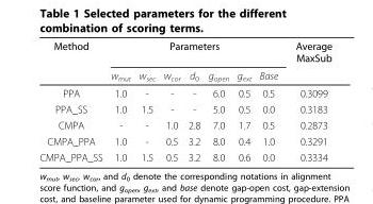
<table><thead><tr><td rowspan="2">Method</td><td colspan="7">Parameters</td><td rowspan="2">Average MaxSub</td></tr><tr><td>w<sub>mut</sub></td><td>w<sub>sec</sub></td><td>w<sub>cor</sub></td><td>d<sub>0</sub></td><td>g<sub>open</sub></td><td>g<sub>ext</sub></td><td>Base</td></tr></thead><tbody><tr><td>PPA</td><td>1.0</td><td>-</td><td>-</td><td>-</td><td>6.0</td><td>0.5</td><td>0.5</td><td>0.3099</td></tr><tr><td>PPA_SS</td><td>1.0</td><td>1.5</td><td>-</td><td>-</td><td>5.0</td><td>0.5</td><td>0.0</td><td>0.3183</td></tr><tr><td>CMPA</td><td>-</td><td>-</td><td>1.0</td><td>2.8</td><td>7.0</td><td>1.7</td><td>0.5</td><td>0.2873</td></tr><tr><td>CMPA_PPA</td><td>1.0</td><td>-</td><td>0.5</td><td>3.2</td><td>8.0</td><td>0.4</td><td>1.0</td><td>0.3291</td></tr><tr><td>CMPA_PPA_SS</td><td>1.0</td><td>1.5</td><td>0.5</td><td>3.2</td><td>8.0</td><td>0.6</td><td>0.0</td><td>0.3334</td></tr></tbody></table>